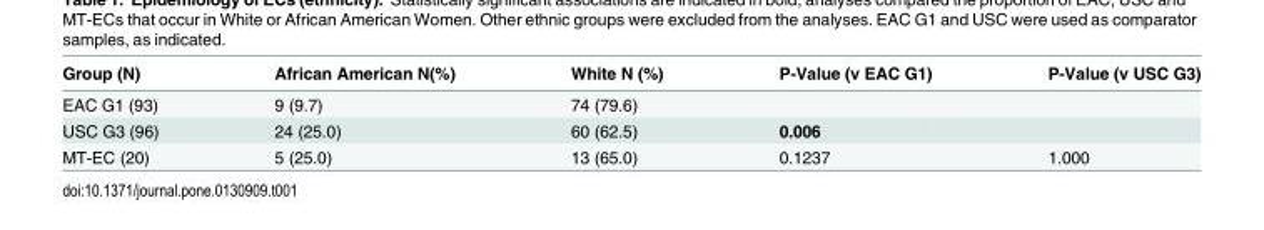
<table><thead><tr><td>Group (N)</td><td>African American N(%)</td><td>White N (%)</td><td>P-Value (v EAC G1)</td><td>P-Value (v USC G3)</td></tr></thead><tbody><tr><td>EAC G1 (93)</td><td>9 (9.7)</td><td>74 (79.6)</td><td></td><td></td></tr><tr><td>USC G3 (96)</td><td>24 (25.0)</td><td>60 (62.5)</td><td>0.006</td><td></td></tr><tr><td>MT-EC (20)</td><td>5 (25.0)</td><td>13 (65.0)</td><td>0.1237</td><td>1.000</td></tr></tbody></table>